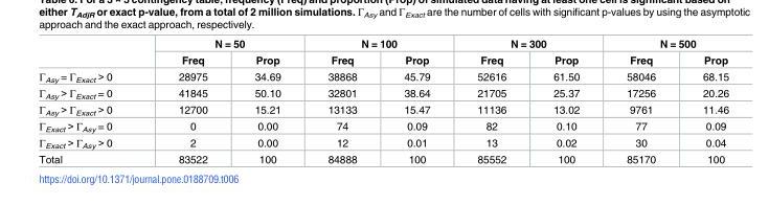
<table><thead><tr><td rowspan="2"></td><td colspan="2">N = 50</td><td colspan="2">N = 100</td><td colspan="2">N = 300</td><td colspan="2">N = 500</td></tr><tr><td>Freq</td><td>Prop</td><td>Freq</td><td>Prop</td><td>Freq</td><td>Prop</td><td>Freq</td><td>Prop</td></tr></thead><tbody><tr><td>Γ<sub>Asy</sub> = Γ<sub>Exact</sub> &gt; 0</td><td>28975</td><td>34.69</td><td>38868</td><td>45.79</td><td>52616</td><td>61.50</td><td>58046</td><td>68.15</td></tr><tr><td>Γ<sub>Asy</sub> &gt; Γ<sub>Exact</sub> = 0</td><td>41845</td><td>50.10</td><td>32801</td><td>38.64</td><td>21705</td><td>25.37</td><td>17256</td><td>20.26</td></tr><tr><td>Γ<sub>Asy</sub> &gt; Γ<sub>Exact</sub> &gt; 0</td><td>12700</td><td>15.21</td><td>13133</td><td>15.47</td><td>11136</td><td>13.02</td><td>9761</td><td>11.46</td></tr><tr><td>Γ<sub>Exact</sub> &gt; Γ<sub>Asy</sub> = 0</td><td>0</td><td>0.00</td><td>74</td><td>0.09</td><td>82</td><td>0.10</td><td>77</td><td>0.09</td></tr><tr><td>Γ<sub>Exact</sub> &gt; Γ<sub>Asy</sub> &gt; 0</td><td>2</td><td>0.00</td><td>12</td><td>0.01</td><td>13</td><td>0.02</td><td>30</td><td>0.04</td></tr><tr><td>Total</td><td>83522</td><td>100</td><td>84888</td><td>100</td><td>85552</td><td>100</td><td>85170</td><td>100</td></tr></tbody></table>